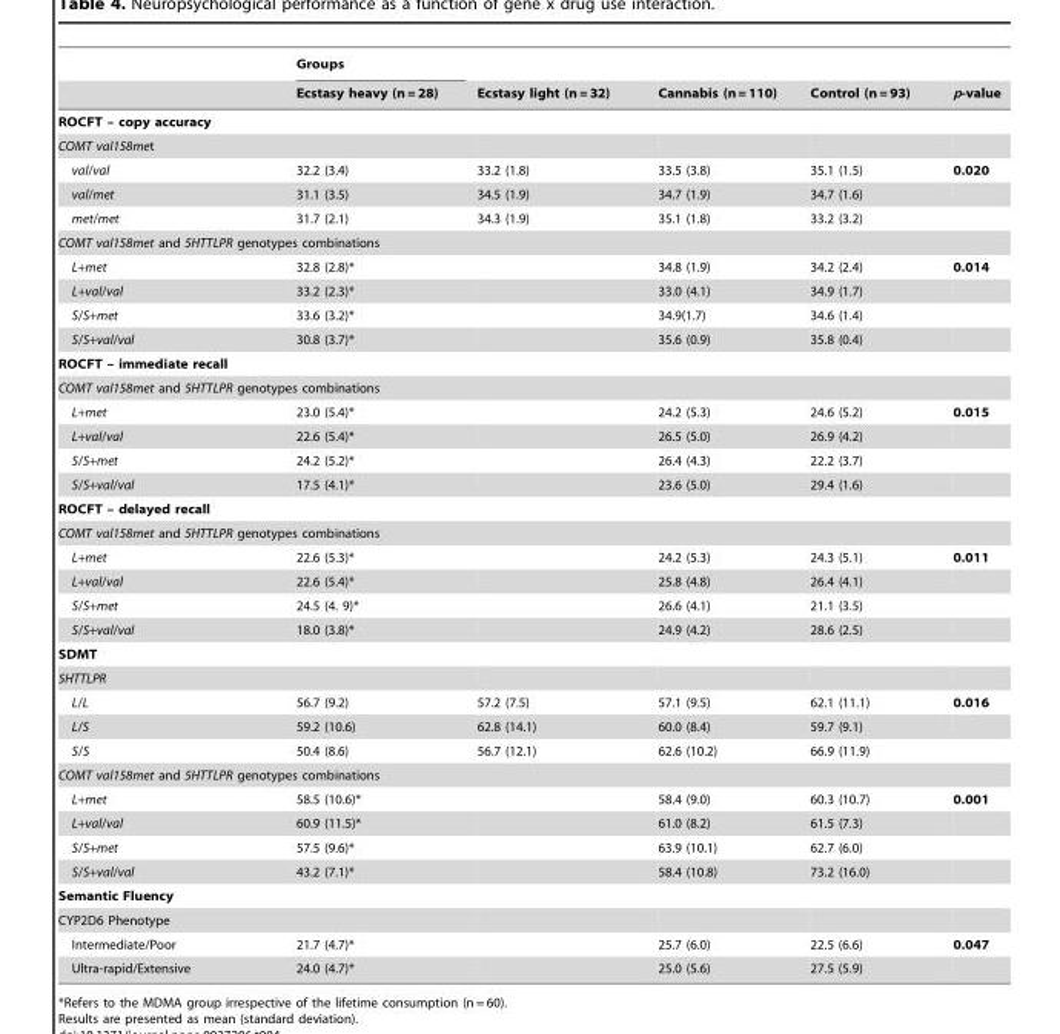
<table><thead><tr><td rowspan="2"></td><td rowspan="2">Groups Ecstasy heavy (n = 28)</td><td rowspan="2">Ecstasy light (n = 32)</td><td rowspan="2">Cannabis (n = 110)</td><td rowspan="2">Control (n = 93)</td><td rowspan="2">p-value</td></tr><tr></tr></thead><tbody><tr><td colspan="6">ROCFT – copy accuracy</td></tr><tr><td colspan="6">COMT val158met</td></tr><tr><td>val/val</td><td>32.2 (3.4)</td><td>33.2 (1.8)</td><td>33.5 (3.8)</td><td>35.1 (1.5)</td><td>0.020</td></tr><tr><td>val/met</td><td>31.1 (3.5)</td><td>34.5 (1.9)</td><td>34.7 (1.9)</td><td>34.7 (1.6)</td><td></td></tr><tr><td>met/met</td><td>31.7 (2.1)</td><td>34.3 (1.9)</td><td>35.1 (1.8)</td><td>33.2 (3.2)</td><td></td></tr><tr><td colspan="6">COMT val158met and 5HTTLPR genotypes combinations</td></tr><tr><td>L+met</td><td>32.8 (2.8)*</td><td></td><td>34.8 (1.9)</td><td>34.2 (2.4)</td><td>0.014</td></tr><tr><td>L+val/val</td><td>33.2 (2.3)*</td><td></td><td>33.0 (4.1)</td><td>34.9 (1.7)</td><td></td></tr><tr><td>S/S+met</td><td>33.6 (3.2)*</td><td></td><td>34.9(1.7)</td><td>34.6 (1.4)</td><td></td></tr><tr><td>S/S+val/val</td><td>30.8 (3.7)*</td><td></td><td>35.6 (0.9)</td><td>35.8 (0.4)</td><td></td></tr><tr><td colspan="6">ROCFT – immediate recall</td></tr><tr><td colspan="6">COMT val158met and 5HTTLPR genotypes combinations</td></tr><tr><td>L+met</td><td>23.0 (5.4)*</td><td></td><td>24.2 (5.3)</td><td>24.6 (5.2)</td><td>0.015</td></tr><tr><td>L+val/val</td><td>22.6 (5.4)*</td><td></td><td>26.5 (5.0)</td><td>26.9 (4.2)</td><td></td></tr><tr><td>S/S+met</td><td>24.2 (5.2)*</td><td></td><td>26.4 (4.3)</td><td>22.2 (3.7)</td><td></td></tr><tr><td>S/S+val/val</td><td>17.5 (4.1)*</td><td></td><td>23.6 (5.0)</td><td>29.4 (1.6)</td><td></td></tr><tr><td colspan="6">ROCFT – delayed recall</td></tr><tr><td colspan="6">COMT val158met and 5HTTLPR genotypes combinations</td></tr><tr><td>L+met</td><td>22.6 (5.3)*</td><td></td><td>24.2 (5.3)</td><td>24.3 (5.1)</td><td>0.011</td></tr><tr><td>L+val/val</td><td>22.6 (5.4)*</td><td></td><td>25.8 (4.8)</td><td>26.4 (4.1)</td><td></td></tr><tr><td>S/S+met</td><td>24.5 (4. 9)*</td><td></td><td>26.6 (4.1)</td><td>21.1 (3.5)</td><td></td></tr><tr><td>S/S+val/val</td><td>18.0 (3.8)*</td><td></td><td>24.9 (4.2)</td><td>28.6 (2.5)</td><td></td></tr><tr><td colspan="6">SDMT</td></tr><tr><td colspan="6">5HTTLPR</td></tr><tr><td>L/L</td><td>56.7 (9.2)</td><td>57.2 (7.5)</td><td>57.1 (9.5)</td><td>62.1 (11.1)</td><td>0.016</td></tr><tr><td>L/S</td><td>59.2 (10.6)</td><td>62.8 (14.1)</td><td>60.0 (8.4)</td><td>59.7 (9.1)</td><td></td></tr><tr><td>S/S</td><td>50.4 (8.6)</td><td>56.7 (12.1)</td><td>62.6 (10.2)</td><td>66.9 (11.9)</td><td></td></tr><tr><td colspan="6">COMT val158met and 5HTTLPR genotypes combinations</td></tr><tr><td>L+met</td><td>58.5 (10.6)*</td><td></td><td>58.4 (9.0)</td><td>60.3 (10.7)</td><td>0.001</td></tr><tr><td>L+val/val</td><td>60.9 (11.5)*</td><td></td><td>61.0 (8.2)</td><td>61.5 (7.3)</td><td></td></tr><tr><td>S/S+met</td><td>57.5 (9.6)*</td><td></td><td>63.9 (10.1)</td><td>62.7 (6.0)</td><td></td></tr><tr><td>S/S+val/val</td><td>43.2 (7.1)*</td><td></td><td>58.4 (10.8)</td><td>73.2 (16.0)</td><td></td></tr><tr><td colspan="6">Semantic Fluency</td></tr><tr><td colspan="6">CYP2D6 Phenotype</td></tr><tr><td>Intermediate/Poor</td><td>21.7 (4.7)*</td><td></td><td>25.7 (6.0)</td><td>22.5 (6.6)</td><td>0.047</td></tr><tr><td>Ultra-rapid/Extensive</td><td>24.0 (4.7)*</td><td></td><td>25.0 (5.6)</td><td>27.5 (5.9)</td><td></td></tr></tbody></table>